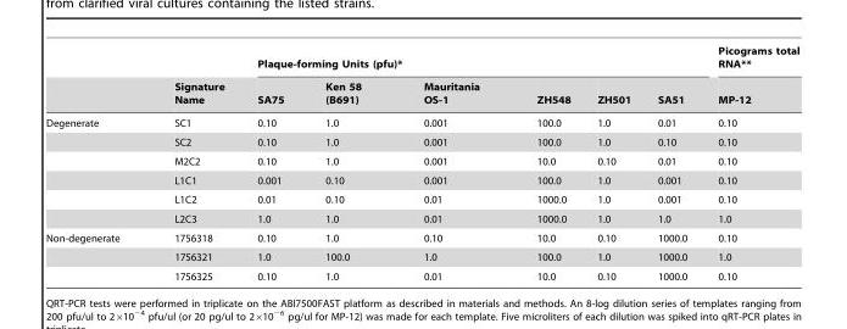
<table><thead><tr><td rowspan="2"></td><td rowspan="2">Signature Name</td><td colspan="6">Plaque-forming Units (pfu)*</td><td rowspan="2">Picograms total RNA** MP-12</td></tr><tr><td>SA75</td><td>Ken 58 (B691)</td><td>Mauritania OS-1</td><td>ZH548</td><td>ZH501</td><td>SA51</td></tr></thead><tbody><tr><td rowspan="6">Degenerate</td><td>SC1</td><td>0.10</td><td>1.0</td><td>0.001</td><td>100.0</td><td>1.0</td><td>0.01</td><td>0.10</td></tr><tr><td>SC2</td><td>0.10</td><td>1.0</td><td>0.001</td><td>100.0</td><td>1.0</td><td>0.10</td><td>0.10</td></tr><tr><td>M2C2</td><td>0.10</td><td>1.0</td><td>0.001</td><td>10.0</td><td>0.10</td><td>0.01</td><td>0.10</td></tr><tr><td>L1C1</td><td>0.001</td><td>0.10</td><td>0.001</td><td>100.0</td><td>1.0</td><td>0.001</td><td>0.10</td></tr><tr><td>L1C2</td><td>0.01</td><td>0.10</td><td>0.01</td><td>1000.0</td><td>1.0</td><td>0.001</td><td>0.10</td></tr><tr><td>L2C3</td><td>1.0</td><td>1.0</td><td>0.01</td><td>1000.0</td><td>1.0</td><td>1.0</td><td>1.0</td></tr><tr><td rowspan="3">Non-degenerate</td><td>1756318</td><td>0.10</td><td>1.0</td><td>0.10</td><td>10.0</td><td>0.10</td><td>1000.0</td><td>0.10</td></tr><tr><td>1756321</td><td>1.0</td><td>100.0</td><td>1.0</td><td>100.0</td><td>1.0</td><td>1000.0</td><td>1.0</td></tr><tr><td>1756325</td><td>0.10</td><td>1.0</td><td>0.01</td><td>10.0</td><td>0.10</td><td>1000.0</td><td>0.10</td></tr></tbody></table>